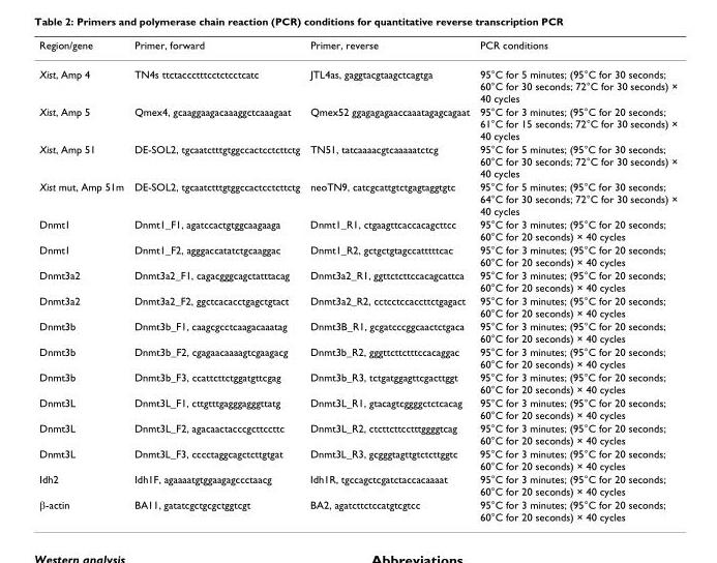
<table><thead><tr><td>Region/gene</td><td>Primer, forward</td><td>Primer, reverse</td><td>PCR conditions</td></tr></thead><tbody><tr><td>Xist, Amp 4</td><td>TN4s ttctaccctttcctctcctcatc</td><td>JTL4as, gaggtacgtaagctcagtga</td><td>95°C for 5 minutes; (95°C for 30 seconds; 60°C for 30 seconds; 72°C for 30 seconds) × 40 cycles</td></tr><tr><td>Xist, Amp 5</td><td>Qmex4, gcaaggaagacaaaggctcaaagaat</td><td>Qmex52 ggagagagaaccaaatagagcagaat</td><td>95°C for 3 minutes; (95°C for 20 seconds; 61°C for 15 seconds; 72°C for 30 seconds) × 40 cycles</td></tr><tr><td>Xist, Amp 51</td><td>DE-SOL2, tgcaatctttgtggccactcctcttctg</td><td>TN51, tatcaaaacgtcaaaaatctcg</td><td>95°C for 5 minutes; (95°C for 30 seconds; 60°C for 30 seconds; 72°C for 30 seconds) × 40 cycles</td></tr><tr><td>Xist mut, Amp 51m</td><td>DE-SOL2, tgcaatctttgtggccactcctcttctg</td><td>neoTN9, catcgcattgtctgagtaggtgtc</td><td>95°C for 5 minutes; (95°C for 30 seconds; 64°C for 30 seconds; 72°C for 30 seconds) × 40 cycles</td></tr><tr><td>Dnmt1</td><td>Dnmt1_F1, agatccactgtggcaagaaga</td><td>Dnmt1_R1, ctgaagttcaccacagcttcc</td><td>95°C for 3 minutes; (95°C for 20 seconds; 60°C for 20 seconds) × 40 cycles</td></tr><tr><td>Dnmt1</td><td>Dnmt1_F2, agggaccatatctgcaaggac</td><td>Dnmt1_R2, gctgctgtagccatttttcac</td><td>95°C for 3 minutes; (95°C for 20 seconds; 60°C for 20 seconds) × 40 cycles</td></tr><tr><td>Dnmt3a2</td><td>Dnmt3a2_F1, cagacgggcagctatttacag</td><td>Dnmt3a2_R1, ggttctcttccacagcattca</td><td>95°C for 3 minutes; (95°C for 20 seconds; 60°C for 20 seconds) × 40 cycles</td></tr><tr><td>Dnmt3a2</td><td>Dnmt3a2_F2, ggctcacacctgagctgtact</td><td>Dnmt3a2_R2, cctcctccaccttctgagact</td><td>95°C for 3 minutes; (95°C for 20 seconds; 60°C for 20 seconds) × 40 cycles</td></tr><tr><td>Dnmt3b</td><td>Dnmt3b_F1, caagcgcctcaagacaaatag</td><td>Dnmt3B_R1, gcgatcccggcaactctgaca</td><td>95°C for 3 minutes; (95°C for 20 seconds; 60°C for 20 seconds) × 40 cycles</td></tr><tr><td>Dnmt3b</td><td>Dnmt3b_F2, cgagaacaaaagtcgaagacg</td><td>Dnmt3b_R2, gggttcttctttccacaggac</td><td>95°C for 3 minutes; (95°C for 20 seconds; 60°C for 20 seconds) × 40 cycles</td></tr><tr><td>Dnmt3b</td><td>Dnmt3b_F3, ccattcttctggatgttcgag</td><td>Dnmt3b_R3, tctgatggagttcgacttggt</td><td>95°C for 3 minutes; (95°C for 20 seconds; 60°C for 20 seconds) × 40 cycles</td></tr><tr><td>Dnmt3L</td><td>Dnmt3L_F1, cttgtttgagggagggttatg</td><td>Dnmt3L_R1, gtacagtcggggctctcacag</td><td>95°C for 3 minutes; (95°C for 20 seconds; 60°C for 20 seconds) × 40 cycles</td></tr><tr><td>Dnmt3L</td><td>Dnmt3L_F2, agacaactacccgcttccttc</td><td>Dnmt3L_R2, ctcttcttcctttggggtcag</td><td>95°C for 3 minutes; (95°C for 20 seconds; 60°C for 20 seconds) × 40 cycles</td></tr><tr><td>Dnmt3L</td><td>Dnmt3L_F3, cccctaggcagctcttgtgat</td><td>Dnmt3L_R3, gcgggtagttgtctcttggtc</td><td>95°C for 3 minutes; (95°C for 20 seconds; 60°C for 20 seconds) × 40 cycles</td></tr><tr><td>Idh2</td><td>Idh1F, agaaaatgtggaagagccctaacg</td><td>Idh1R, tgccagctcgatctaccacaaaat</td><td>95°C for 3 minutes; (95°C for 20 seconds; 60°C for 20 seconds) × 40 cycles</td></tr><tr><td>β-actin</td><td>BA11, gatatcgctgcgctggtcgt</td><td>BA2, agatcttctccatgtcgtcc</td><td>95°C for 3 minutes; (95°C for 20 seconds; 60°C for 20 seconds) × 40 cycles</td></tr></tbody></table>